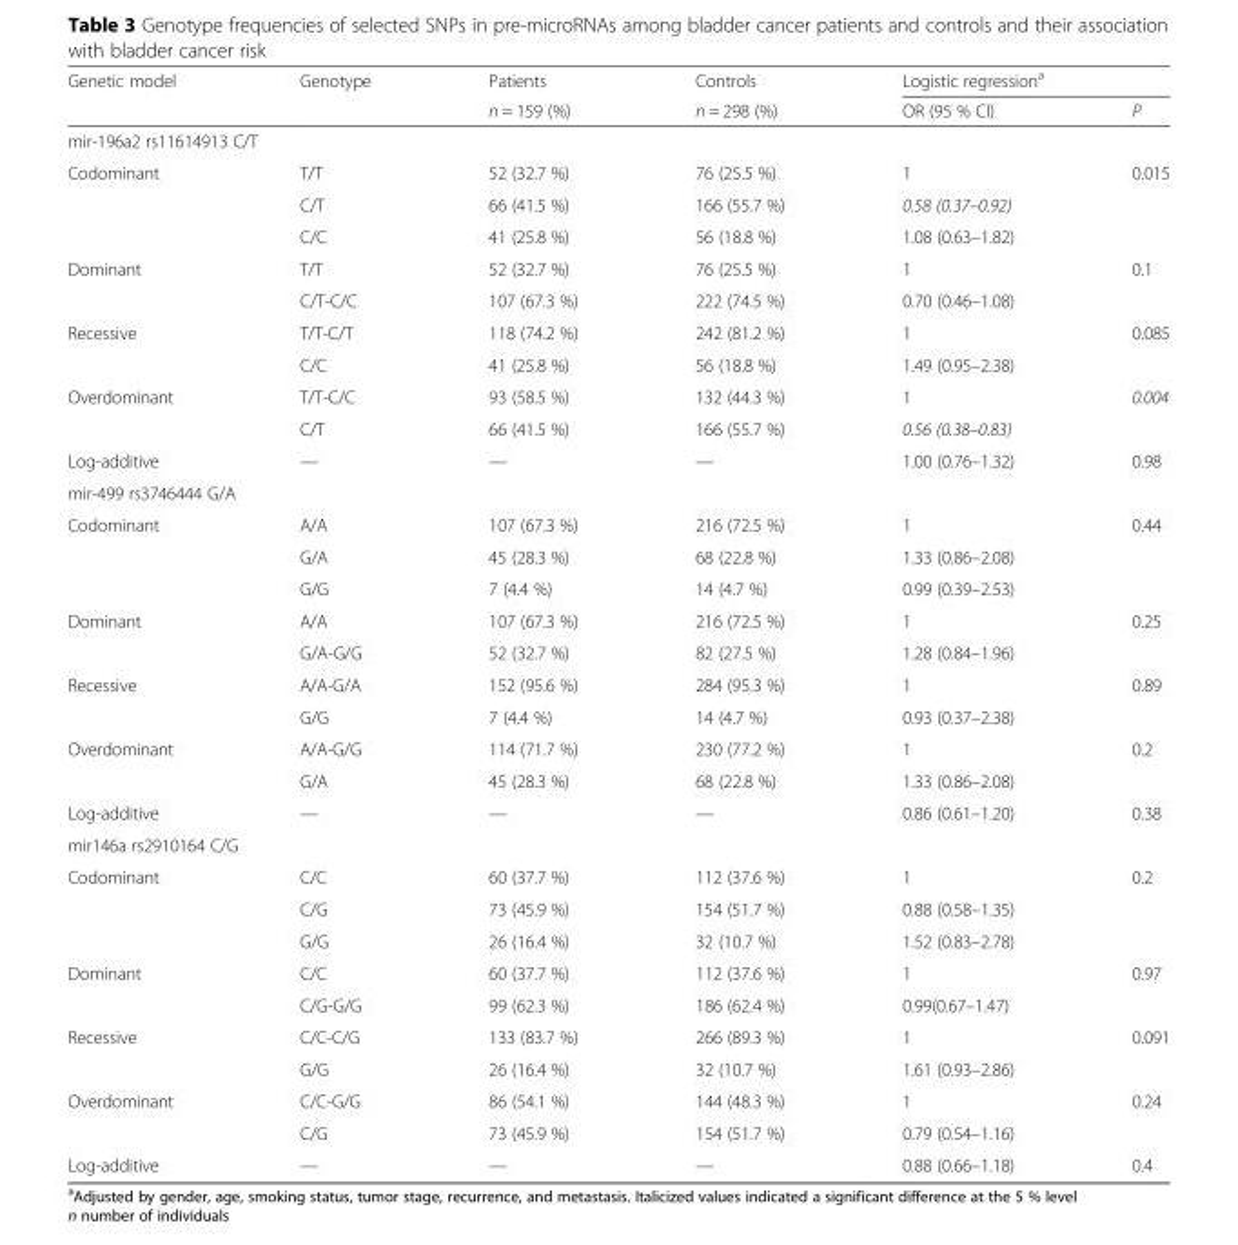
<table><thead><tr><td rowspan="2">Genetic model</td><td rowspan="2">Genotype</td><td rowspan="2">Patients n = 159 (%)</td><td rowspan="2">Controls n = 298 (%)</td><td colspan="2">Logistic regression<sup>a</sup></td></tr><tr><td>OR (95 % CI)</td><td>P</td></tr></thead><tbody><tr><td colspan="6">mir-196a2 rs11614913 C/T</td></tr><tr><td rowspan="3">Codominant</td><td>T/T</td><td>52 (32.7 %)</td><td>76 (25.5 %)</td><td>1</td><td rowspan="3">0.015</td></tr><tr><td>C/T</td><td>66 (41.5 %)</td><td>166 (55.7 %)</td><td>0.58 (0.37–0.92)</td></tr><tr><td>C/C</td><td>41 (25.8 %)</td><td>56 (18.8 %)</td><td>1.08 (0.63–1.82)</td></tr><tr><td rowspan="2">Dominant</td><td>T/T</td><td>52 (32.7 %)</td><td>76 (25.5 %)</td><td>1</td><td rowspan="2">0.1</td></tr><tr><td>C/T-C/C</td><td>107 (67.3 %)</td><td>222 (74.5 %)</td><td>0.70 (0.46–1.08)</td></tr><tr><td rowspan="2">Recessive</td><td>T/T-C/T</td><td>118 (74.2 %)</td><td>242 (81.2 %)</td><td>1</td><td rowspan="2">0.085</td></tr><tr><td>C/C</td><td>41 (25.8 %)</td><td>56 (18.8 %)</td><td>1.49 (0.95–2.38)</td></tr><tr><td rowspan="2">Overdominant</td><td>T/T-C/C</td><td>93 (58.5 %)</td><td>132 (44.3 %)</td><td>1</td><td rowspan="2">0.004</td></tr><tr><td>C/T</td><td>66 (41.5 %)</td><td>166 (55.7 %)</td><td>0.56 (0.38–0.83)</td></tr><tr><td>Log-additive</td><td>—</td><td>—</td><td>—</td><td>1.00 (0.76–1.32)</td><td>0.98</td></tr><tr><td colspan="6">mir-499 rs3746444 G/A</td></tr><tr><td rowspan="3">Codominant</td><td>A/A</td><td>107 (67.3 %)</td><td>216 (72.5 %)</td><td>1</td><td rowspan="3">0.44</td></tr><tr><td>G/A</td><td>45 (28.3 %)</td><td>68 (22.8 %)</td><td>1.33 (0.86–2.08)</td></tr><tr><td>G/G</td><td>7 (4.4 %)</td><td>14 (4.7 %)</td><td>0.99 (0.39–2.53)</td></tr><tr><td rowspan="2">Dominant</td><td>A/A</td><td>107 (67.3 %)</td><td>216 (72.5 %)</td><td>1</td><td rowspan="2">0.25</td></tr><tr><td>G/A-G/G</td><td>52 (32.7 %)</td><td>82 (27.5 %)</td><td>1.28 (0.84–1.96)</td></tr><tr><td rowspan="2">Recessive</td><td>A/A-G/A</td><td>152 (95.6 %)</td><td>284 (95.3 %)</td><td>1</td><td rowspan="2">0.89</td></tr><tr><td>G/G</td><td>7 (4.4 %)</td><td>14 (4.7 %)</td><td>0.93 (0.37–2.38)</td></tr><tr><td rowspan="2">Overdominant</td><td>A/A-G/G</td><td>114 (71.7 %)</td><td>230 (77.2 %)</td><td>1</td><td rowspan="2">0.2</td></tr><tr><td>G/A</td><td>45 (28.3 %)</td><td>68 (22.8 %)</td><td>1.33 (0.86–2.08)</td></tr><tr><td>Log-additive</td><td>—</td><td>—</td><td>—</td><td>0.86 (0.61–1.20)</td><td>0.38</td></tr><tr><td colspan="6">mir146a rs2910164 C/G</td></tr><tr><td rowspan="3">Codominant</td><td>C/C</td><td>60 (37.7 %)</td><td>112 (37.6 %)</td><td>1</td><td rowspan="3">0.2</td></tr><tr><td>C/G</td><td>73 (45.9 %)</td><td>154 (51.7 %)</td><td>0.88 (0.58–1.35)</td></tr><tr><td>G/G</td><td>26 (16.4 %)</td><td>32 (10.7 %)</td><td>1.52 (0.83–2.78)</td></tr><tr><td rowspan="2">Dominant</td><td>C/C</td><td>60 (37.7 %)</td><td>112 (37.6 %)</td><td>1</td><td rowspan="2">0.97</td></tr><tr><td>C/G-G/G</td><td>99 (62.3 %)</td><td>186 (62.4 %)</td><td>0.99(0.67–1.47)</td></tr><tr><td rowspan="2">Recessive</td><td>C/C-C/G</td><td>133 (83.7 %)</td><td>266 (89.3 %)</td><td>1</td><td rowspan="2">0.091</td></tr><tr><td>G/G</td><td>26 (16.4 %)</td><td>32 (10.7 %)</td><td>1.61 (0.93–2.86)</td></tr><tr><td rowspan="2">Overdominant</td><td>C/C-G/G</td><td>86 (54.1 %)</td><td>144 (48.3 %)</td><td>1</td><td rowspan="2">0.24</td></tr><tr><td>C/G</td><td>73 (45.9 %)</td><td>154 (51.7 %)</td><td>0.79 (0.54–1.16)</td></tr><tr><td>Log-additive</td><td>—</td><td>—</td><td>—</td><td>0.88 (0.66–1.18)</td><td>0.4</td></tr></tbody></table>